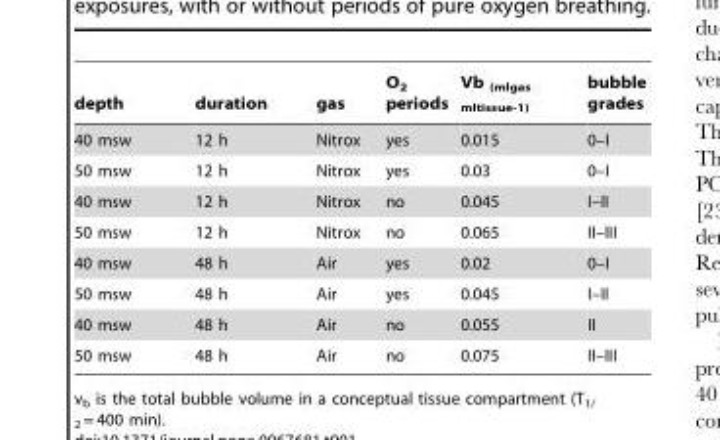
<table><thead><tr><td>depth</td><td>duration</td><td>gas</td><td>O<sub>2</sub> periods</td><td>Vb <sub>(mlgas mltissue-1)</sub></td><td>bubble grades</td></tr></thead><tbody><tr><td>40 msw</td><td>12 h</td><td>Nitrox</td><td>yes</td><td>0.015</td><td>0–I</td></tr><tr><td>50 msw</td><td>12 h</td><td>Nitrox</td><td>yes</td><td>0.03</td><td>0–I</td></tr><tr><td>40 msw</td><td>12 h</td><td>Nitrox</td><td>no</td><td>0.045</td><td>I–II</td></tr><tr><td>50 msw</td><td>12 h</td><td>Nitrox</td><td>no</td><td>0.065</td><td>II–III</td></tr><tr><td>40 msw</td><td>48 h</td><td>Air</td><td>yes</td><td>0.02</td><td>0–I</td></tr><tr><td>50 msw</td><td>48 h</td><td>Air</td><td>yes</td><td>0.045</td><td>I–II</td></tr><tr><td>40 msw</td><td>48 h</td><td>Air</td><td>no</td><td>0.055</td><td>II</td></tr><tr><td>50 msw</td><td>48 h</td><td>Air</td><td>no</td><td>0.075</td><td>II–III</td></tr></tbody></table>